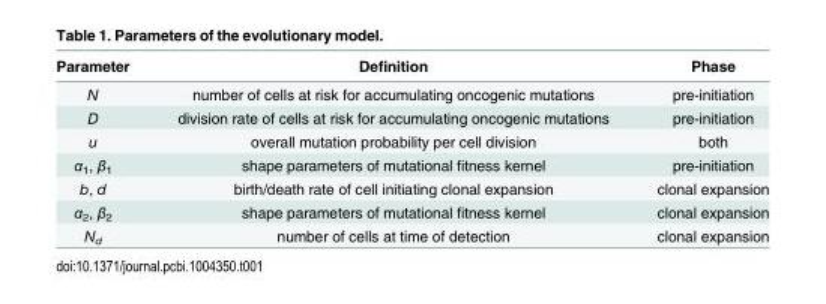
<table><thead><tr><td>Parameter</td><td>Definition</td><td>Phase</td></tr></thead><tbody><tr><td>N</td><td>number of cells at risk for accumulating oncogenic mutations</td><td>pre-initiation</td></tr><tr><td>D</td><td>division rate of cells at risk for accumulating oncogenic mutations</td><td>pre-initiation</td></tr><tr><td>u</td><td>overall mutation probability per cell division</td><td>both</td></tr><tr><td>α<sub>1</sub>, β<sub>1</sub></td><td>shape parameters of mutational fitness kernel</td><td>pre-initiation</td></tr><tr><td>b, d</td><td>birth/death rate of cell initiating clonal expansion</td><td>clonal expansion</td></tr><tr><td>α<sub>2</sub>, β<sub>2</sub></td><td>shape parameters of mutational fitness kernel</td><td>clonal expansion</td></tr><tr><td>N<sub>d</sub></td><td>number of cells at time of detection</td><td>clonal expansion</td></tr></tbody></table>